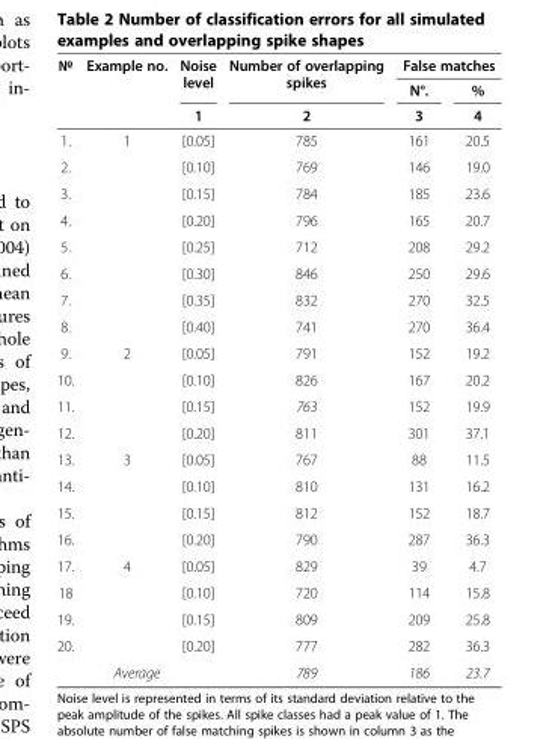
<table><thead><tr><td rowspan="3">№</td><td rowspan="3">Example no.</td><td rowspan="3">Noise level 1</td><td rowspan="3">Number of overlapping spikes 2</td><td colspan="2">False matches</td></tr><tr><td rowspan="2">N°. 3</td><td rowspan="2">% 4</td></tr><tr></tr></thead><tbody><tr><td>1.</td><td rowspan="8">1</td><td>[0.05]</td><td>785</td><td>161</td><td>20.5</td></tr><tr><td>2.</td><td>[0.10]</td><td>769</td><td>146</td><td>19.0</td></tr><tr><td>3.</td><td>[0.15]</td><td>784</td><td>185</td><td>23.6</td></tr><tr><td>4.</td><td>[0.20]</td><td>796</td><td>165</td><td>20.7</td></tr><tr><td>5.</td><td>[0.25]</td><td>712</td><td>208</td><td>29.2</td></tr><tr><td>6.</td><td>[0.30]</td><td>846</td><td>250</td><td>29.6</td></tr><tr><td>7.</td><td>[0.35]</td><td>832</td><td>270</td><td>32.5</td></tr><tr><td>8.</td><td>[0.40]</td><td>741</td><td>270</td><td>36.4</td></tr><tr><td>9.</td><td rowspan="4">2</td><td>[0.05]</td><td>791</td><td>152</td><td>19.2</td></tr><tr><td>10.</td><td>[0.10]</td><td>826</td><td>167</td><td>20.2</td></tr><tr><td>11.</td><td>[0.15]</td><td>763</td><td>152</td><td>19.9</td></tr><tr><td>12.</td><td>[0.20]</td><td>811</td><td>301</td><td>37.1</td></tr><tr><td>13.</td><td rowspan="4">3</td><td>[0.05]</td><td>767</td><td>88</td><td>11.5</td></tr><tr><td>14.</td><td>[0.10]</td><td>810</td><td>131</td><td>16.2</td></tr><tr><td>15.</td><td>[0.15]</td><td>812</td><td>152</td><td>18.7</td></tr><tr><td>16.</td><td>[0.20]</td><td>790</td><td>287</td><td>36.3</td></tr><tr><td>17.</td><td rowspan="4">4</td><td>[0.05]</td><td>829</td><td>39</td><td>4.7</td></tr><tr><td>18</td><td>[0.10]</td><td>720</td><td>114</td><td>15.8</td></tr><tr><td>19.</td><td>[0.15]</td><td>809</td><td>209</td><td>25.8</td></tr><tr><td>20.</td><td>[0.20]</td><td>777</td><td>282</td><td>36.3</td></tr><tr><td colspan="3">Average</td><td>789</td><td>186</td><td>23.7</td></tr></tbody></table>